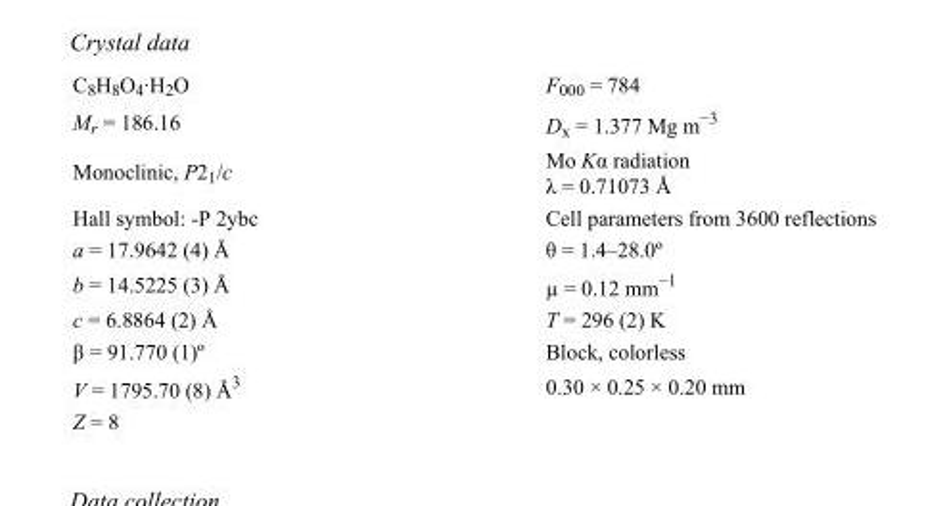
<table><tbody><tr><td>C<sub>8</sub>H<sub>8</sub>O<sub>4</sub>·H<sub>2</sub>O</td><td>F<sub>000</sub> = 784</td></tr><tr><td>M<sub>r</sub> = 186.16</td><td>D<sub>x</sub> = 1.377 Mg m<sup>−3</sup></td></tr><tr><td>Monoclinic, P2<sub>1</sub>/c</td><td>Mo Kα radiation λ = 0.71073 Å</td></tr><tr><td>Hall symbol: -P 2ybc</td><td>Cell parameters from 3600 reflections</td></tr><tr><td>a = 17.9642 (4) Å</td><td>θ = 1.4–28.0º</td></tr><tr><td>b = 14.5225 (3) Å</td><td>µ = 0.12 mm<sup>−1</sup></td></tr><tr><td>c = 6.8864 (2) Å</td><td>T = 296 (2) K</td></tr><tr><td>β = 91.770 (1)º</td><td>Block, colorless</td></tr><tr><td>V = 1795.70 (8) Å<sup>3</sup></td><td>0.30 × 0.25 × 0.20 mm</td></tr><tr><td>Z = 8</td><td></td></tr></tbody></table>